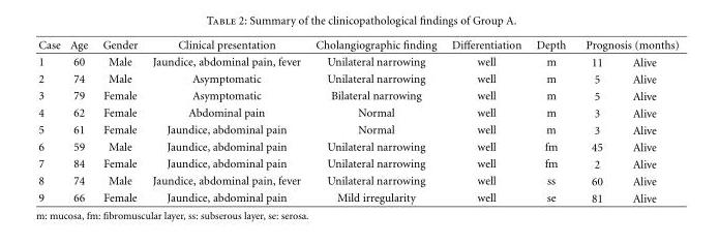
<table><thead><tr><td rowspan="2">Case 1</td><td rowspan="2">Age 60</td><td rowspan="2">Gender Male</td><td rowspan="2">Clinical presentation Jaundice, abdominal pain, fever</td><td rowspan="2">Cholangiographic finding Unilateral narrowing</td><td rowspan="2">Differentiation well</td><td rowspan="2">Depth m</td><td colspan="2">Prognosis (months)</td></tr><tr><td>11</td><td>Alive</td></tr></thead><tbody><tr><td>2</td><td>74</td><td>Male</td><td>Asymptomatic</td><td>Unilateral narrowing</td><td>well</td><td>m</td><td>5</td><td>Alive</td></tr><tr><td>3</td><td>79</td><td>Female</td><td>Asymptomatic</td><td>Bilateral narrowing</td><td>well</td><td>m</td><td>5</td><td>Alive</td></tr><tr><td>4</td><td>62</td><td>Female</td><td>Abdominal pain</td><td>Normal</td><td>well</td><td>m</td><td>3</td><td>Alive</td></tr><tr><td>5</td><td>61</td><td>Female</td><td>Jaundice, abdominal pain</td><td>Normal</td><td>well</td><td>m</td><td>3</td><td>Alive</td></tr><tr><td>6</td><td>59</td><td>Male</td><td>Jaundice, abdominal pain</td><td>Unilateral narrowing</td><td>well</td><td>fm</td><td>45</td><td>Alive</td></tr><tr><td>7</td><td>84</td><td>Female</td><td>Jaundice, abdominal pain</td><td>Unilateral narrowing</td><td>well</td><td>fm</td><td>2</td><td>Alive</td></tr><tr><td>8</td><td>74</td><td>Male</td><td>Jaundice, abdominal pain, fever</td><td>Unilateral narrowing</td><td>well</td><td>ss</td><td>60</td><td>Alive</td></tr><tr><td>9</td><td>66</td><td>Female</td><td>Jaundice, abdominal pain</td><td>Mild irregularity</td><td>well</td><td>se</td><td>81</td><td>Alive</td></tr></tbody></table>